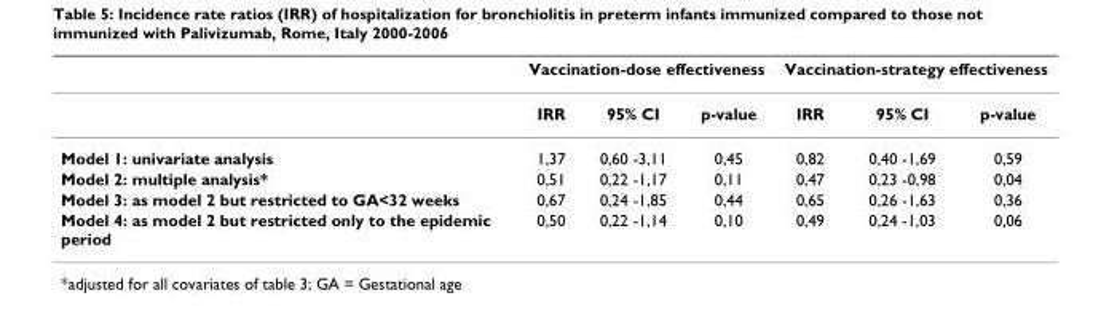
<table><thead><tr><td rowspan="2"></td><td colspan="3">Vaccination-dose effectiveness</td><td colspan="3">Vaccination-strategy effectiveness</td></tr><tr><td>IRR</td><td>95% CI</td><td>p-value</td><td>IRR</td><td>95% CI</td><td>p-value</td></tr></thead><tbody><tr><td>Model 1: univariate analysis</td><td>1,37</td><td>0,60 -3,11</td><td>0,45</td><td>0,82</td><td>0,40 -1,69</td><td>0,59</td></tr><tr><td>Model 2: multiple analysis*</td><td>0,51</td><td>0,22 -1,17</td><td>0,11</td><td>0,47</td><td>0,23 -0,98</td><td>0,04</td></tr><tr><td>Model 3: as model 2 but restricted to GA&lt;32 weeks</td><td>0,67</td><td>0,24 -1,85</td><td>0,44</td><td>0,65</td><td>0,26 -1,63</td><td>0,36</td></tr><tr><td>Model 4: as model 2 but restricted only to the epidemic period</td><td>0,50</td><td>0,22 -1,14</td><td>0,10</td><td>0,49</td><td>0,24 -1,03</td><td>0,06</td></tr></tbody></table>